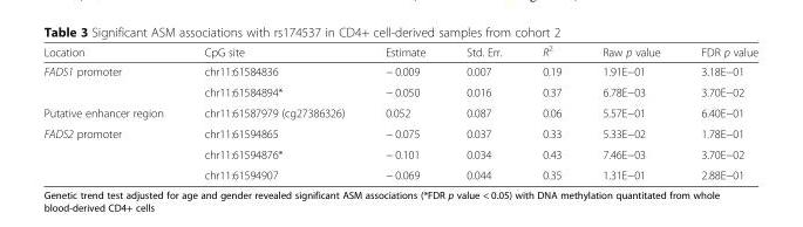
<table><thead><tr><td>Location</td><td>CpG site</td><td>Estimate</td><td>Std. Err.</td><td>R<sup>2</sup></td><td>Raw p value</td><td>FDR p value</td></tr></thead><tbody><tr><td rowspan="2">FADS1 promoter</td><td>chr11:61584836</td><td>− 0.009</td><td>0.007</td><td>0.19</td><td>1.91E−01</td><td>3.18E−01</td></tr><tr><td>chr11:61584894*</td><td>− 0.050</td><td>0.016</td><td>0.37</td><td>6.78E−03</td><td>3.70E−02</td></tr><tr><td>Putative enhancer region</td><td>chr11:61587979 (cg27386326)</td><td>0.052</td><td>0.087</td><td>0.06</td><td>5.57E−01</td><td>6.40E−01</td></tr><tr><td rowspan="3">FADS2 promoter</td><td>chr11:61594865</td><td>− 0.075</td><td>0.037</td><td>0.33</td><td>5.33E−02</td><td>1.78E−01</td></tr><tr><td>chr11:61594876*</td><td>− 0.101</td><td>0.034</td><td>0.43</td><td>7.46E−03</td><td>3.70E−02</td></tr><tr><td>chr11:61594907</td><td>− 0.069</td><td>0.044</td><td>0.35</td><td>1.31E−01</td><td>2.88E−01</td></tr></tbody></table>